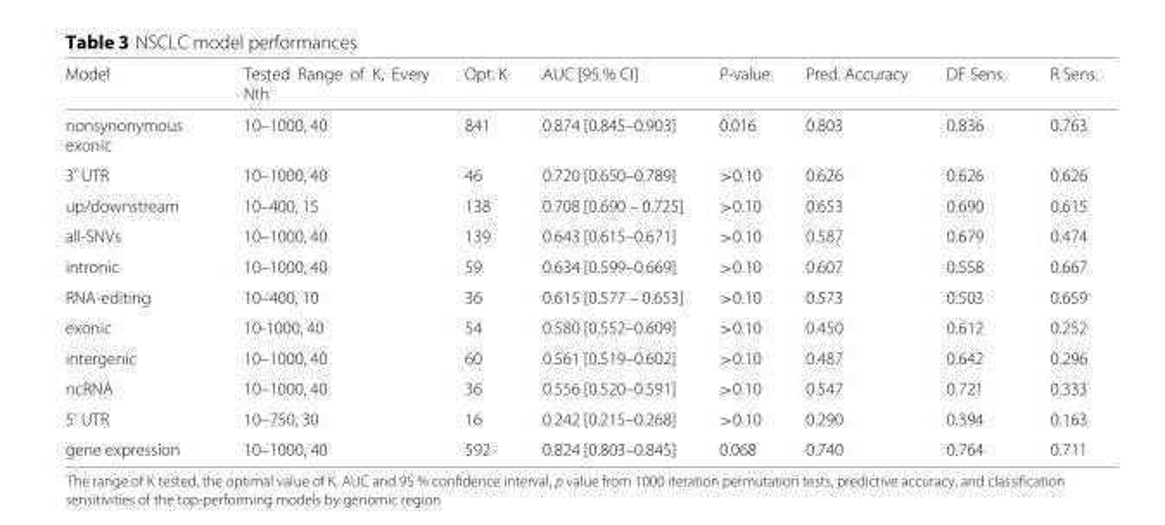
<table><thead><tr><td>Model</td><td>Tested Range of K, Every Nth</td><td>Opt. K</td><td>AUC [95 % CI]</td><td>P-value</td><td>Pred. Accuracy</td><td>DF Sens.</td><td>R Sens.</td></tr></thead><tbody><tr><td>nonsynonymous exonic</td><td>10–1000, 40</td><td>841</td><td>0.874 [0.845–0.903]</td><td>0.016</td><td>0.803</td><td>0.836</td><td>0.763</td></tr><tr><td>3’ UTR</td><td>10–1000, 40</td><td>46</td><td>0.720 [0.650–0.789]</td><td>&gt;0.10</td><td>0.626</td><td>0.626</td><td>0.626</td></tr><tr><td>up/downstream</td><td>10–400, 15</td><td>138</td><td>0.708 [0.690 – 0.725]</td><td>&gt;0.10</td><td>0.653</td><td>0.690</td><td>0.615</td></tr><tr><td>all-SNVs</td><td>10–1000, 40</td><td>139</td><td>0.643 [0.615–0.671]</td><td>&gt;0.10</td><td>0.587</td><td>0.679</td><td>0.474</td></tr><tr><td>intronic</td><td>10–1000, 40</td><td>59</td><td>0.634 [0.599–0.669]</td><td>&gt;0.10</td><td>0.607</td><td>0.558</td><td>0.667</td></tr><tr><td>RNA-editing</td><td>10–400, 10</td><td>36</td><td>0.615 [0.577 – 0.653]</td><td>&gt;0.10</td><td>0.573</td><td>0.503</td><td>0.659</td></tr><tr><td>exonic</td><td>10-1000, 40</td><td>54</td><td>0.580 [0.552–0.609]</td><td>&gt;0.10</td><td>0.450</td><td>0.612</td><td>0.252</td></tr><tr><td>intergenic</td><td>10–1000, 40</td><td>60</td><td>0.561 [0.519–0.602]</td><td>&gt;0.10</td><td>0.487</td><td>0.642</td><td>0.296</td></tr><tr><td>ncRNA</td><td>10–1000, 40</td><td>36</td><td>0.556 [0.520–0.591]</td><td>&gt;0.10</td><td>0.547</td><td>0.721</td><td>0.333</td></tr><tr><td>5’ UTR</td><td>10–750, 30</td><td>16</td><td>0.242 [0.215–0.268]</td><td>&gt;0.10</td><td>0.290</td><td>0.394</td><td>0.163</td></tr><tr><td>gene expression</td><td>10–1000, 40</td><td>592</td><td>0.824 [0.803–0.845]</td><td>0.068</td><td>0.740</td><td>0.764</td><td>0.711</td></tr></tbody></table>